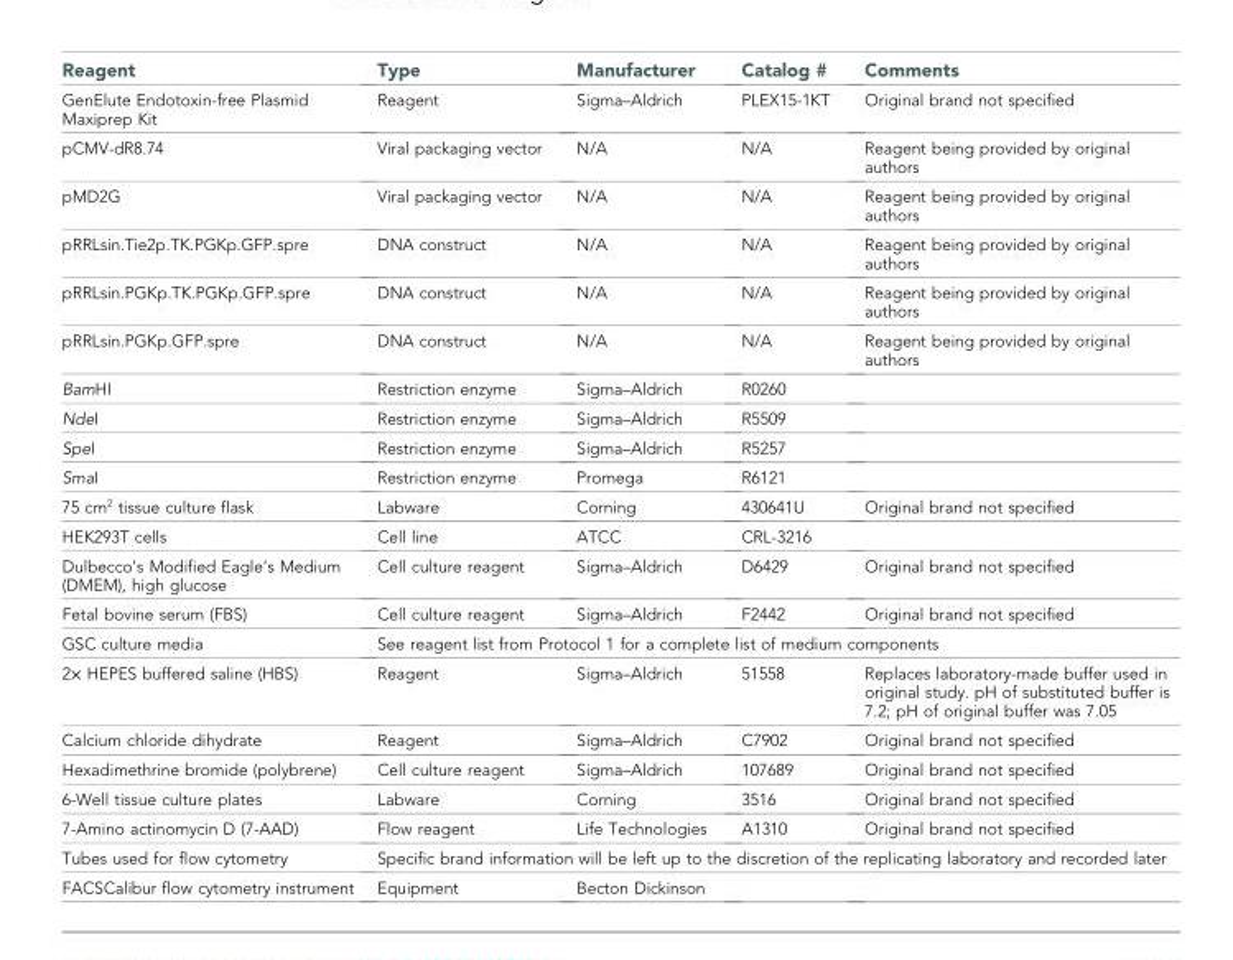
<table><thead><tr><td>Reagent</td><td>Type</td><td>Manufacturer</td><td>Catalog #</td><td>Comments</td></tr></thead><tbody><tr><td>GenElute Endotoxin-free Plasmid Maxiprep Kit</td><td>Reagent</td><td>Sigma–Aldrich</td><td>PLEX15-1KT</td><td>Original brand not specified</td></tr><tr><td>pCMV-dR8.74</td><td>Viral packaging vector</td><td>N/A</td><td>N/A</td><td>Reagent being provided by original authors</td></tr><tr><td>pMD2G</td><td>Viral packaging vector</td><td>N/A</td><td>N/A</td><td>Reagent being provided by original authors</td></tr><tr><td>pRRLsin.Tie2p.TK.PGKp.GFP.spre</td><td>DNA construct</td><td>N/A</td><td>N/A</td><td>Reagent being provided by original authors</td></tr><tr><td>pRRLsin.PGKp.TK.PGKp.GFP.spre</td><td>DNA construct</td><td>N/A</td><td>N/A</td><td>Reagent being provided by original authors</td></tr><tr><td>pRRLsin.PGKp.GFP.spre</td><td>DNA construct</td><td>N/A</td><td>N/A</td><td>Reagent being provided by original authors</td></tr><tr><td>BamHI</td><td>Restriction enzyme</td><td>Sigma–Aldrich</td><td>R0260</td><td></td></tr><tr><td>NdeI</td><td>Restriction enzyme</td><td>Sigma–Aldrich</td><td>R5509</td><td></td></tr><tr><td>SpeI</td><td>Restriction enzyme</td><td>Sigma–Aldrich</td><td>R5257</td><td></td></tr><tr><td>SmaI</td><td>Restriction enzyme</td><td>Promega</td><td>R6121</td><td></td></tr><tr><td>75 cm<sup>2</sup> tissue culture flask</td><td>Labware</td><td>Corning</td><td>430641U</td><td>Original brand not specified</td></tr><tr><td>HEK293T cells</td><td>Cell line</td><td>ATCC</td><td>CRL-3216</td><td></td></tr><tr><td>Dulbecco’s Modified Eagle’s Medium (DMEM), high glucose</td><td>Cell culture reagent</td><td>Sigma–Aldrich</td><td>D6429</td><td>Original brand not specified</td></tr><tr><td>Fetal bovine serum (FBS)</td><td>Cell culture reagent</td><td>Sigma–Aldrich</td><td>F2442</td><td>Original brand not specified</td></tr><tr><td>GSC culture media</td><td colspan="4">See reagent list from Protocol 1 for a complete list of medium components</td></tr><tr><td>2× HEPES buffered saline (HBS)</td><td>Reagent</td><td>Sigma–Aldrich</td><td>51558</td><td>Replaces laboratory-made buffer used in original study. pH of substituted buffer is 7.2; pH of original buffer was 7.05</td></tr><tr><td>Calcium chloride dihydrate</td><td>Reagent</td><td>Sigma–Aldrich</td><td>C7902</td><td>Original brand not specified</td></tr><tr><td>Hexadimethrine bromide (polybrene)</td><td>Cell culture reagent</td><td>Sigma–Aldrich</td><td>107689</td><td>Original brand not specified</td></tr><tr><td>6-Well tissue culture plates</td><td>Labware</td><td>Corning</td><td>3516</td><td>Original brand not specified</td></tr><tr><td>7-Amino actinomycin D (7-AAD)</td><td>Flow reagent</td><td>Life Technologies</td><td>A1310</td><td>Original brand not specified</td></tr><tr><td>Tubes used for flow cytometry</td><td colspan="4">Specific brand information will be left up to the discretion of the replicating laboratory and recorded later</td></tr><tr><td>FACSCalibur flow cytometry instrument</td><td>Equipment</td><td>Becton Dickinson</td><td></td><td></td></tr></tbody></table>